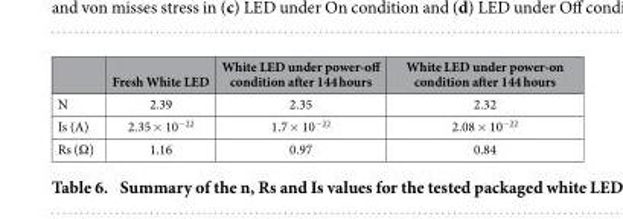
<table><thead><tr><td></td><td>Fresh White LED</td><td>White LED under power-off condition after 144 hours</td><td>White LED under power-on condition after 144 hours</td></tr></thead><tbody><tr><td>N</td><td>2.39</td><td>2.35</td><td>2.32</td></tr><tr><td>Is (A)</td><td>2.35 × 10<sup>−22</sup></td><td>1.7 × 10<sup>−22</sup></td><td>2.08 × 10<sup>−22</sup></td></tr><tr><td>Rs (Ω )</td><td>1.16</td><td>0.97</td><td>0.84</td></tr></tbody></table>